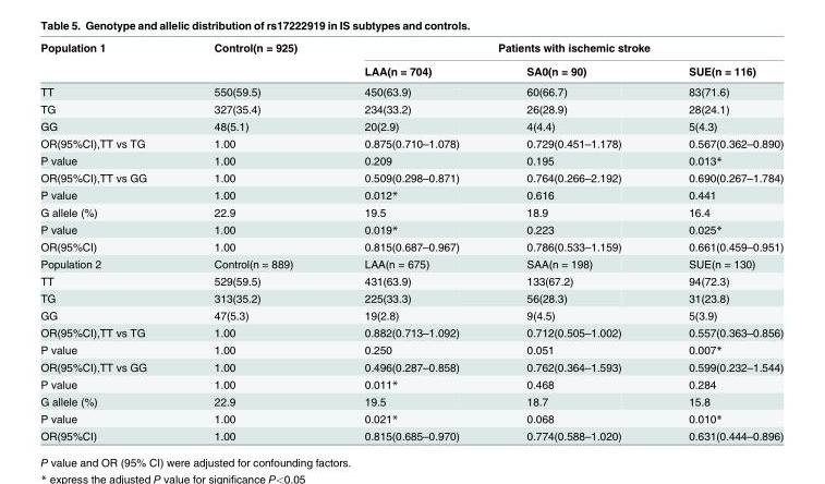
<table><thead><tr><td rowspan="2">Population 1</td><td rowspan="2">Control(n = 925)</td><td colspan="3">Patients with ischemic stroke</td></tr><tr><td>LAA(n = 704)</td><td>SA0(n = 90)</td><td>SUE(n = 116)</td></tr></thead><tbody><tr><td>TT</td><td>550(59.5)</td><td>450(63.9)</td><td>60(66.7)</td><td>83(71.6)</td></tr><tr><td>TG</td><td>327(35.4)</td><td>234(33.2)</td><td>26(28.9)</td><td>28(24.1)</td></tr><tr><td>GG</td><td>48(5.1)</td><td>20(2.9)</td><td>4(4.4)</td><td>5(4.3)</td></tr><tr><td>OR(95%CI),TT vs TG</td><td>1.00</td><td>0.875(0.710–1.078)</td><td>0.729(0.451–1.178)</td><td>0.567(0.362–0.890)</td></tr><tr><td>P value</td><td>1.00</td><td>0.209</td><td>0.195</td><td>0.013*</td></tr><tr><td>OR(95%CI),TT vs GG</td><td>1.00</td><td>0.509(0.298–0.871)</td><td>0.764(0.266–2.192)</td><td>0.690(0.267–1.784)</td></tr><tr><td>P value</td><td>1.00</td><td>0.012*</td><td>0.616</td><td>0.441</td></tr><tr><td>G allele (%)</td><td>22.9</td><td>19.5</td><td>18.9</td><td>16.4</td></tr><tr><td>P value</td><td>1.00</td><td>0.019*</td><td>0.223</td><td>0.025*</td></tr><tr><td>OR(95%CI)</td><td>1.00</td><td>0.815(0.687–0.967)</td><td>0.786(0.533–1.159)</td><td>0.661(0.459–0.951)</td></tr><tr><td>Population 2</td><td>Control(n = 889)</td><td>LAA(n = 675)</td><td>SAA(n = 198)</td><td>SUE(n = 130)</td></tr><tr><td>TT</td><td>529(59.5)</td><td>431(63.9)</td><td>133(67.2)</td><td>94(72.3)</td></tr><tr><td>TG</td><td>313(35.2)</td><td>225(33.3)</td><td>56(28.3)</td><td>31(23.8)</td></tr><tr><td>GG</td><td>47(5.3)</td><td>19(2.8)</td><td>9(4.5)</td><td>5(3.9)</td></tr><tr><td>OR(95%CI),TT vs TG</td><td>1.00</td><td>0.882(0.713–1.092)</td><td>0.712(0.505–1.002)</td><td>0.557(0.363–0.856)</td></tr><tr><td>P value</td><td>1.00</td><td>0.250</td><td>0.051</td><td>0.007*</td></tr><tr><td>OR(95%CI),TT vs GG</td><td>1.00</td><td>0.496(0.287–0.858)</td><td>0.762(0.364–1.593)</td><td>0.599(0.232–1.544)</td></tr><tr><td>P value</td><td>1.00</td><td>0.011*</td><td>0.468</td><td>0.284</td></tr><tr><td>G allele (%)</td><td>22.9</td><td>19.5</td><td>18.7</td><td>15.8</td></tr><tr><td>P value</td><td>1.00</td><td>0.021*</td><td>0.068</td><td>0.010*</td></tr><tr><td>OR(95%CI)</td><td>1.00</td><td>0.815(0.685–0.970)</td><td>0.774(0.588–1.020)</td><td>0.631(0.444–0.896)</td></tr></tbody></table>